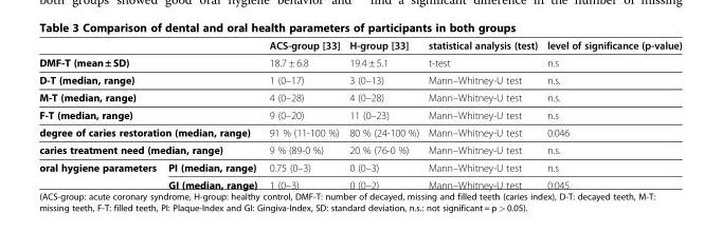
<table><thead><tr><td></td><td></td><td>ACS-group [33]</td><td>H-group [33]</td><td>statistical analysis (test)</td><td>level of significance (p-value)</td></tr></thead><tbody><tr><td colspan="2">DMF-T (mean ± SD)</td><td>18.7 ± 6.8</td><td>19.4 ± 5.1</td><td>t-test</td><td>n.s</td></tr><tr><td colspan="2">D-T (median, range)</td><td>1 (0–17)</td><td>3 (0–13)</td><td>Mann–Whitney-U test</td><td>n.s.</td></tr><tr><td colspan="2">M-T (median, range)</td><td>4 (0–28)</td><td>4 (0–28)</td><td>Mann–Whitney-U test</td><td>n.s.</td></tr><tr><td colspan="2">F-T (median, range)</td><td>9 (0–20)</td><td>11 (0–23)</td><td>Mann–Whitney-U test</td><td>n.s</td></tr><tr><td colspan="2">degree of caries restoration (median, range)</td><td>91 % (11-100 %)</td><td>80 % (24-100 %)</td><td>Mann–Whitney-U test</td><td>0.046</td></tr><tr><td colspan="2">caries treatment need (median, range)</td><td>9 % (89-0 %)</td><td>20 % (76-0 %)</td><td>Mann–Whitney-U test</td><td>n.s.</td></tr><tr><td rowspan="2">oral hygiene parameters</td><td>PI (median, range)</td><td>0.75 (0–3)</td><td>0 (0–3)</td><td>Mann–Whitney-U test</td><td>n.s</td></tr><tr><td>GI (median, range)</td><td>1 (0–3)</td><td>0 (0–2)</td><td>Mann–Whitney-U test</td><td>0.045</td></tr></tbody></table>